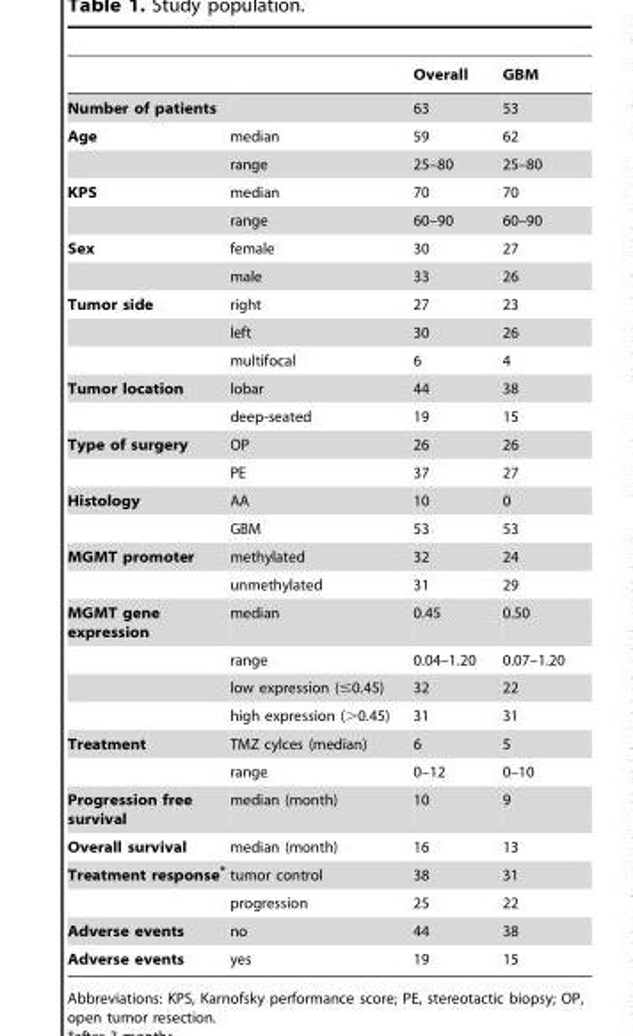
<table><thead><tr><td></td><td></td><td>Overall</td><td>GBM</td></tr></thead><tbody><tr><td>Number of patients</td><td></td><td>63</td><td>53</td></tr><tr><td rowspan="2">Age</td><td>median</td><td>59</td><td>62</td></tr><tr><td>range</td><td>25–80</td><td>25–80</td></tr><tr><td rowspan="2">KPS</td><td>median</td><td>70</td><td>70</td></tr><tr><td>range</td><td>60–90</td><td>60–90</td></tr><tr><td rowspan="2">Sex</td><td>female</td><td>30</td><td>27</td></tr><tr><td>male</td><td>33</td><td>26</td></tr><tr><td rowspan="3">Tumor side</td><td>right</td><td>27</td><td>23</td></tr><tr><td>left</td><td>30</td><td>26</td></tr><tr><td>multifocal</td><td>6</td><td>4</td></tr><tr><td rowspan="2">Tumor location</td><td>lobar</td><td>44</td><td>38</td></tr><tr><td>deep-seated</td><td>19</td><td>15</td></tr><tr><td rowspan="2">Type of surgery</td><td>OP</td><td>26</td><td>26</td></tr><tr><td>PE</td><td>37</td><td>27</td></tr><tr><td rowspan="2">Histology</td><td>AA</td><td>10</td><td>0</td></tr><tr><td>GBM</td><td>53</td><td>53</td></tr><tr><td rowspan="2">MGMT promoter</td><td>methylated</td><td>32</td><td>24</td></tr><tr><td>unmethylated</td><td>31</td><td>29</td></tr><tr><td rowspan="4">MGMT gene expression</td><td>median</td><td>0.45</td><td>0.50</td></tr><tr><td>range</td><td>0.04–1.20</td><td>0.07–1.20</td></tr><tr><td>low expression (≤0.45)</td><td>32</td><td>22</td></tr><tr><td>high expression (&gt;0.45)</td><td>31</td><td>31</td></tr><tr><td rowspan="2">Treatment</td><td>TMZ cylces (median)</td><td>6</td><td>5</td></tr><tr><td>range</td><td>0–12</td><td>0–10</td></tr><tr><td>Progression free survival</td><td>median (month)</td><td>10</td><td>9</td></tr><tr><td>Overall survival</td><td>median (month)</td><td>16</td><td>13</td></tr><tr><td rowspan="2">Treatment response*</td><td>tumor control</td><td>38</td><td>31</td></tr><tr><td>progression</td><td>25</td><td>22</td></tr><tr><td>Adverse events</td><td>no</td><td>44</td><td>38</td></tr><tr><td>Adverse events</td><td>yes</td><td>19</td><td>15</td></tr></tbody></table>